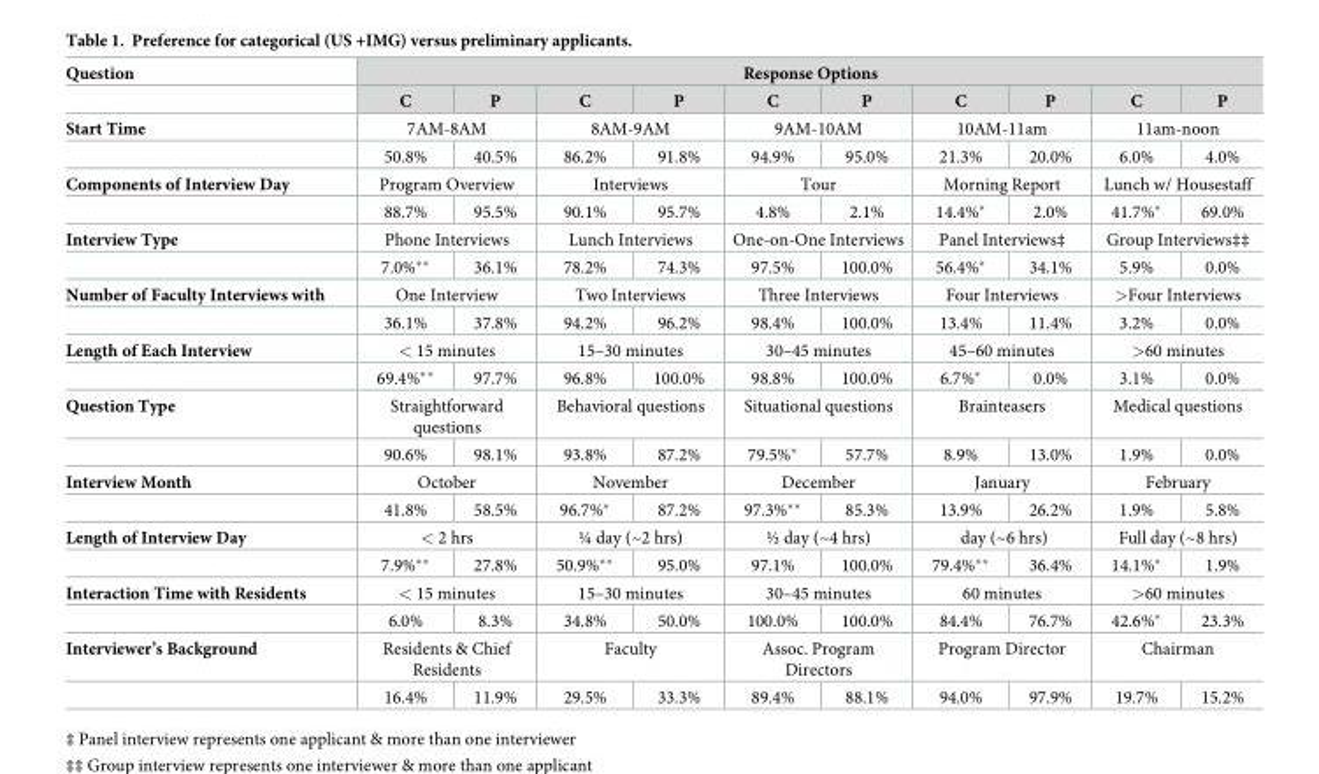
<table><thead><tr><td rowspan="2">Question</td><td colspan="10">Response Options</td></tr><tr><td>C</td><td>P</td><td>C</td><td>P</td><td>C</td><td>P</td><td>C</td><td>P</td><td>C</td><td>P</td></tr></thead><tbody><tr><td rowspan="2">Start Time</td><td colspan="2">7AM-8AM</td><td colspan="2">8AM-9AM</td><td colspan="2">9AM-10AM</td><td colspan="2">10AM-11am</td><td colspan="2">11am-noon</td></tr><tr><td>50.8%</td><td>40.5%</td><td>86.2%</td><td>91.8%</td><td>94.9%</td><td>95.0%</td><td>21.3%</td><td>20.0%</td><td>6.0%</td><td>4.0%</td></tr><tr><td rowspan="2">Components of Interview Day</td><td colspan="2">Program Overview</td><td colspan="2">Interviews</td><td colspan="2">Tour</td><td colspan="2">Morning Report</td><td colspan="2">Lunch w/ Housestaff</td></tr><tr><td>88.7%</td><td>95.5%</td><td>90.1%</td><td>95.7%</td><td>4.8%</td><td>2.1%</td><td>14.4%*</td><td>2.0%</td><td>41.7%*</td><td>69.0%</td></tr><tr><td rowspan="2">Interview Type</td><td colspan="2">Phone Interviews</td><td colspan="2">Lunch Interviews</td><td colspan="2">One-on-One Interviews</td><td colspan="2">Panel Interviews‡</td><td colspan="2">Group Interviews‡‡</td></tr><tr><td>7.0%**</td><td>36.1%</td><td>78.2%</td><td>74.3%</td><td>97.5%</td><td>100.0%</td><td>56.4%*</td><td>34.1%</td><td>5.9%</td><td>0.0%</td></tr><tr><td rowspan="2">Number of Faculty Interviews with</td><td colspan="2">One Interview</td><td colspan="2">Two Interviews</td><td colspan="2">Three Interviews</td><td colspan="2">Four Interviews</td><td colspan="2">&gt;Four Interviews</td></tr><tr><td>36.1%</td><td>37.8%</td><td>94.2%</td><td>96.2%</td><td>98.4%</td><td>100.0%</td><td>13.4%</td><td>11.4%</td><td>3.2%</td><td>0.0%</td></tr><tr><td rowspan="2">Length of Each Interview</td><td colspan="2">&lt; 15 minutes</td><td colspan="2">15–30 minutes</td><td colspan="2">30–45 minutes</td><td colspan="2">45–60 minutes</td><td colspan="2">&gt;60 minutes</td></tr><tr><td>69.4%**</td><td>97.7%</td><td>96.8%</td><td>100.0%</td><td>98.8%</td><td>100.0%</td><td>6.7%*</td><td>0.0%</td><td>3.1%</td><td>0.0%</td></tr><tr><td rowspan="2">Question Type</td><td colspan="2">Straightforward questions</td><td colspan="2">Behavioral questions</td><td colspan="2">Situational questions</td><td colspan="2">Brainteasers</td><td colspan="2">Medical questions</td></tr><tr><td>90.6%</td><td>98.1%</td><td>93.8%</td><td>87.2%</td><td>79.5%*</td><td>57.7%</td><td>8.9%</td><td>13.0%</td><td>1.9%</td><td>0.0%</td></tr><tr><td rowspan="2">Interview Month</td><td colspan="2">October</td><td colspan="2">November</td><td colspan="2">December</td><td colspan="2">January</td><td colspan="2">February</td></tr><tr><td>41.8%</td><td>58.5%</td><td>96.7%*</td><td>87.2%</td><td>97.3%**</td><td>85.3%</td><td>13.9%</td><td>26.2%</td><td>1.9%</td><td>5.8%</td></tr><tr><td rowspan="2">Length of Interview Day</td><td colspan="2">&lt; 2 hrs</td><td colspan="2">¼ day (~2 hrs)</td><td colspan="2">½ day (~4 hrs)</td><td colspan="2">day (~6 hrs)</td><td colspan="2">Full day (~8 hrs)</td></tr><tr><td>7.9%**</td><td>27.8%</td><td>50.9%**</td><td>95.0%</td><td>97.1%</td><td>100.0%</td><td>79.4%**</td><td>36.4%</td><td>14.1%*</td><td>1.9%</td></tr><tr><td rowspan="2">Interaction Time with Residents</td><td colspan="2">&lt; 15 minutes</td><td colspan="2">15–30 minutes</td><td colspan="2">30–45 minutes</td><td colspan="2">60 minutes</td><td colspan="2">&gt;60 minutes</td></tr><tr><td>6.0%</td><td>8.3%</td><td>34.8%</td><td>50.0%</td><td>100.0%</td><td>100.0%</td><td>84.4%</td><td>76.7%</td><td>42.6%*</td><td>23.3%</td></tr><tr><td rowspan="2">Interviewer’s Background</td><td colspan="2">Residents &amp; Chief Residents</td><td colspan="2">Faculty</td><td colspan="2">Assoc. Program Directors</td><td colspan="2">Program Director</td><td colspan="2">Chairman</td></tr><tr><td>16.4%</td><td>11.9%</td><td>29.5%</td><td>33.3%</td><td>89.4%</td><td>88.1%</td><td>94.0%</td><td>97.9%</td><td>19.7%</td><td>15.2%</td></tr></tbody></table>